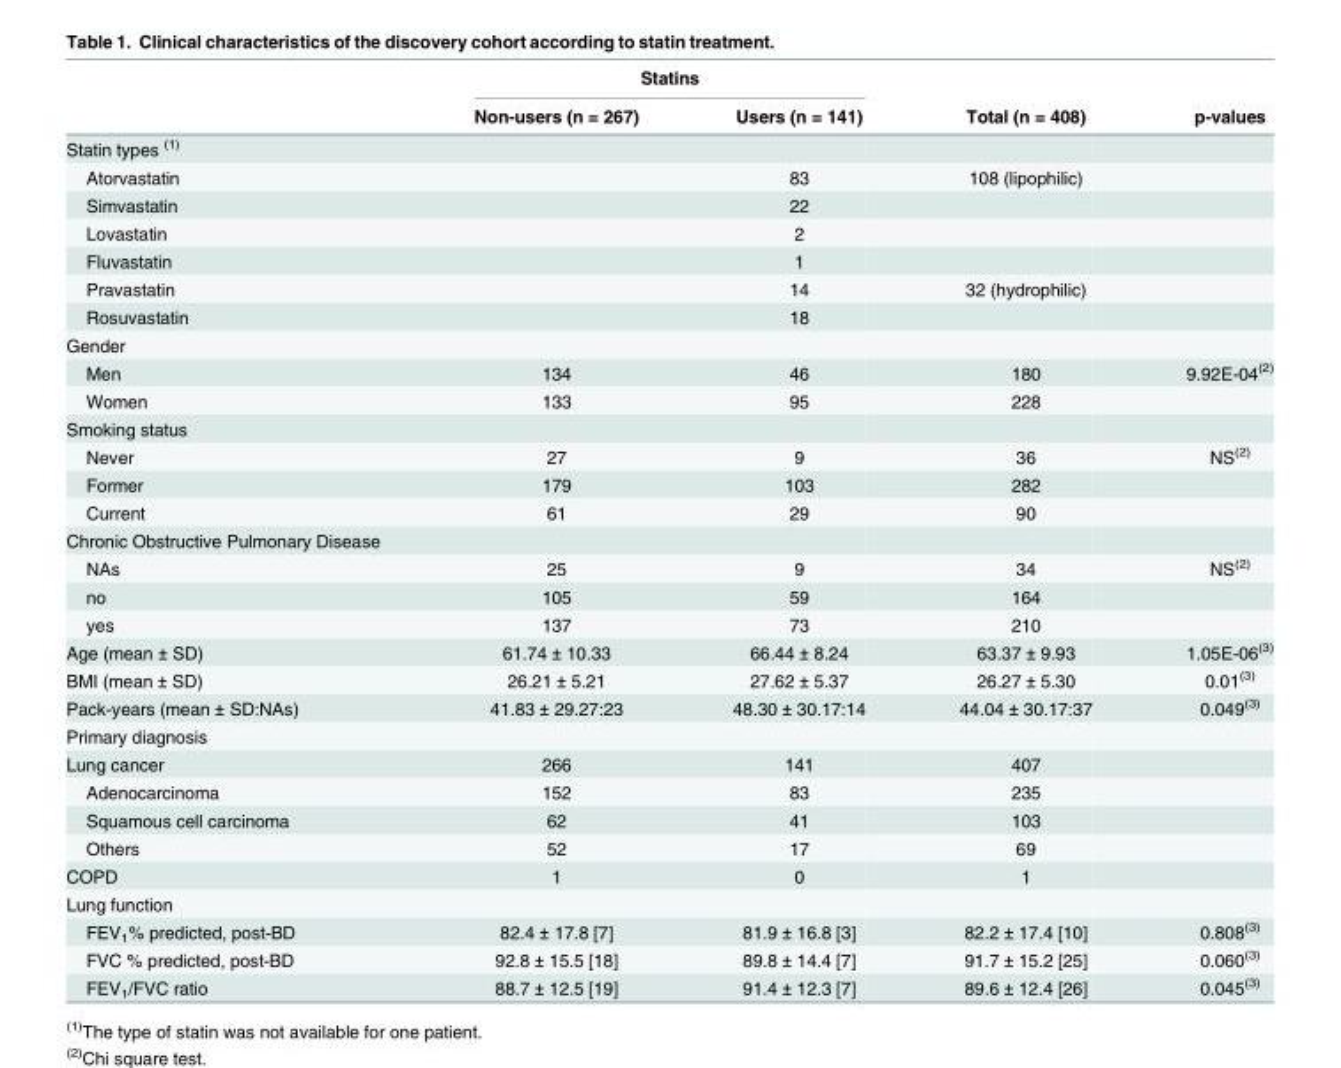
<table><thead><tr><td rowspan="2"></td><td colspan="2">Statins</td><td rowspan="2">Total (n = 408)</td><td rowspan="2">p-values</td></tr><tr><td>Non-users (n = 267)</td><td>Users (n = 141)</td></tr></thead><tbody><tr><td colspan="5">Statin types <sup>(1)</sup></td></tr><tr><td>Atorvastatin</td><td></td><td>83</td><td>108 (lipophilic)</td><td></td></tr><tr><td>Simvastatin</td><td></td><td>22</td><td></td><td></td></tr><tr><td>Lovastatin</td><td></td><td>2</td><td></td><td></td></tr><tr><td>Fluvastatin</td><td></td><td>1</td><td></td><td></td></tr><tr><td>Pravastatin</td><td></td><td>14</td><td>32 (hydrophilic)</td><td></td></tr><tr><td>Rosuvastatin</td><td></td><td>18</td><td></td><td></td></tr><tr><td colspan="5">Gender</td></tr><tr><td>Men</td><td>134</td><td>46</td><td>180</td><td>9.92E-04<sup>(2)</sup></td></tr><tr><td>Women</td><td>133</td><td>95</td><td>228</td><td></td></tr><tr><td colspan="5">Smoking status</td></tr><tr><td>Never</td><td>27</td><td>9</td><td>36</td><td>NS<sup>(2)</sup></td></tr><tr><td>Former</td><td>179</td><td>103</td><td>282</td><td></td></tr><tr><td>Current</td><td>61</td><td>29</td><td>90</td><td></td></tr><tr><td colspan="5">Chronic Obstructive Pulmonary Disease</td></tr><tr><td>NAs</td><td>25</td><td>9</td><td>34</td><td>NS<sup>(2)</sup></td></tr><tr><td>no</td><td>105</td><td>59</td><td>164</td><td></td></tr><tr><td>yes</td><td>137</td><td>73</td><td>210</td><td></td></tr><tr><td>Age (mean ± SD)</td><td>61.74 ± 10.33</td><td>66.44 ± 8.24</td><td>63.37 ± 9.93</td><td>1.05E-06<sup>(3)</sup></td></tr><tr><td>BMI (mean ± SD)</td><td>26.21 ± 5.21</td><td>27.62 ± 5.37</td><td>26.27 ± 5.30</td><td>0.01<sup>(3)</sup></td></tr><tr><td>Pack-years (mean ± SD:NAs)</td><td>41.83 ± 29.27:23</td><td>48.30 ± 30.17:14</td><td>44.04 ± 30.17:37</td><td>0.049<sup>(3)</sup></td></tr><tr><td colspan="5">Primary diagnosis</td></tr><tr><td>Lung cancer</td><td>266</td><td>141</td><td>407</td><td></td></tr><tr><td>Adenocarcinoma</td><td>152</td><td>83</td><td>235</td><td></td></tr><tr><td>Squamous cell carcinoma</td><td>62</td><td>41</td><td>103</td><td></td></tr><tr><td>Others</td><td>52</td><td>17</td><td>69</td><td></td></tr><tr><td>COPD</td><td>1</td><td>0</td><td>1</td><td></td></tr><tr><td colspan="5">Lung function</td></tr><tr><td>FEV<sub>1</sub>% predicted, post-BD</td><td>82.4 ± 17.8 [7]</td><td>81.9 ± 16.8 [3]</td><td>82.2 ± 17.4 [10]</td><td>0.808<sup>(3)</sup></td></tr><tr><td>FVC % predicted, post-BD</td><td>92.8 ± 15.5 [18]</td><td>89.8 ± 14.4 [7]</td><td>91.7 ± 15.2 [25]</td><td>0.060<sup>(3)</sup></td></tr><tr><td>FEV<sub>1</sub>/FVC ratio</td><td>88.7 ± 12.5 [19]</td><td>91.4 ± 12.3 [7]</td><td>89.6 ± 12.4 [26]</td><td>0.045<sup>(3)</sup></td></tr></tbody></table>